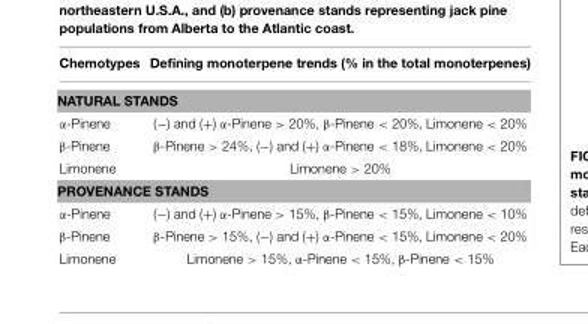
<table><thead><tr><td>Chemotypes</td><td>Defining monoterpene trends (% in the total monoterpenes)</td></tr></thead><tbody><tr><td colspan="2">NATURAL STANDS</td></tr><tr><td>α-Pinene</td><td>(−) and (+) α-Pinene &gt; 20%, β-Pinene &lt; 20%, Limonene &lt; 20%</td></tr><tr><td>β-Pinene</td><td>β-Pinene &gt; 24%, (−) and (+) α-Pinene &lt; 18%, Limonene &lt; 20%</td></tr><tr><td>Limonene</td><td>Limonene &gt; 20%</td></tr><tr><td colspan="2">PROVENANCE STANDS</td></tr><tr><td>α-Pinene</td><td>(−) and (+) α-Pinene &gt; 15%, β-Pinene &lt; 15%, Limonene &lt; 10%</td></tr><tr><td>β-Pinene</td><td>β-Pinene &gt; 15%, (−) and (+) α-Pinene &lt; 15%, Limonene &lt; 20%</td></tr><tr><td>Limonene</td><td>Limonene &gt; 15%, α-Pinene &lt; 15%, β-Pinene &lt; 15%</td></tr></tbody></table>